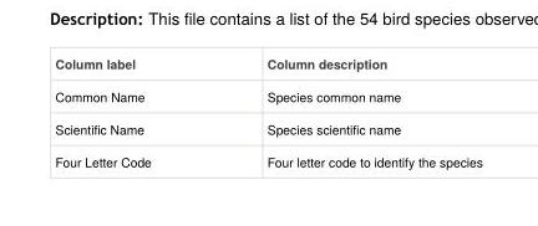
<table><thead><tr><td>Column label</td><td>Column description</td></tr></thead><tbody><tr><td>Common Name</td><td>Species common name</td></tr><tr><td>Scientific Name</td><td>Species scientific name</td></tr><tr><td>Four Letter Code</td><td>Four letter code to identify the species</td></tr></tbody></table>